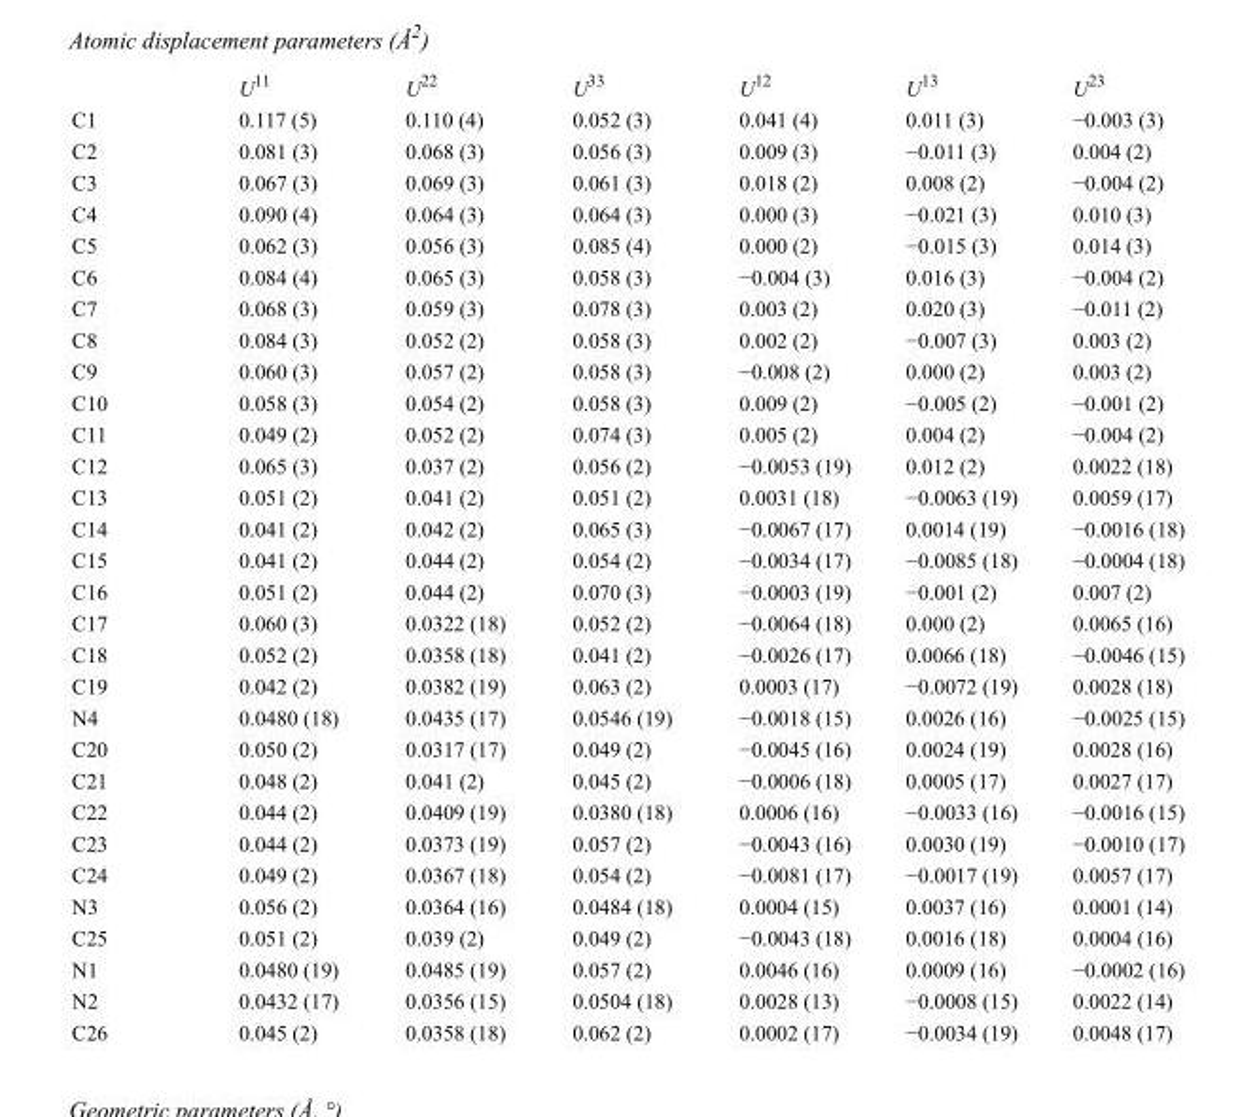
<table><thead><tr><td></td><td>U<sup>11</sup></td><td>U<sup>22</sup></td><td>U<sup>33</sup></td><td>U<sup>12</sup></td><td>U<sup>13</sup></td><td>U<sup>23</sup></td></tr></thead><tbody><tr><td>C1</td><td>0.117 (5)</td><td>0.110 (4)</td><td>0.052 (3)</td><td>0.041 (4)</td><td>0.011 (3)</td><td>−0.003 (3)</td></tr><tr><td>C2</td><td>0.081 (3)</td><td>0.068 (3)</td><td>0.056 (3)</td><td>0.009 (3)</td><td>−0.011 (3)</td><td>0.004 (2)</td></tr><tr><td>C3</td><td>0.067 (3)</td><td>0.069 (3)</td><td>0.061 (3)</td><td>0.018 (2)</td><td>0.008 (2)</td><td>−0.004 (2)</td></tr><tr><td>C4</td><td>0.090 (4)</td><td>0.064 (3)</td><td>0.064 (3)</td><td>0.000 (3)</td><td>−0.021 (3)</td><td>0.010 (3)</td></tr><tr><td>C5</td><td>0.062 (3)</td><td>0.056 (3)</td><td>0.085 (4)</td><td>0.000 (2)</td><td>−0.015 (3)</td><td>0.014 (3)</td></tr><tr><td>C6</td><td>0.084 (4)</td><td>0.065 (3)</td><td>0.058 (3)</td><td>−0.004 (3)</td><td>0.016 (3)</td><td>−0.004 (2)</td></tr><tr><td>C7</td><td>0.068 (3)</td><td>0.059 (3)</td><td>0.078 (3)</td><td>0.003 (2)</td><td>0.020 (3)</td><td>−0.011 (2)</td></tr><tr><td>C8</td><td>0.084 (3)</td><td>0.052 (2)</td><td>0.058 (3)</td><td>0.002 (2)</td><td>−0.007 (3)</td><td>0.003 (2)</td></tr><tr><td>C9</td><td>0.060 (3)</td><td>0.057 (2)</td><td>0.058 (3)</td><td>−0.008 (2)</td><td>0.000 (2)</td><td>0.003 (2)</td></tr><tr><td>C10</td><td>0.058 (3)</td><td>0.054 (2)</td><td>0.058 (3)</td><td>0.009 (2)</td><td>−0.005 (2)</td><td>−0.001 (2)</td></tr><tr><td>C11</td><td>0.049 (2)</td><td>0.052 (2)</td><td>0.074 (3)</td><td>0.005 (2)</td><td>0.004 (2)</td><td>−0.004 (2)</td></tr><tr><td>C12</td><td>0.065 (3)</td><td>0.037 (2)</td><td>0.056 (2)</td><td>−0.0053 (19)</td><td>0.012 (2)</td><td>0.0022 (18)</td></tr><tr><td>C13</td><td>0.051 (2)</td><td>0.041 (2)</td><td>0.051 (2)</td><td>0.0031 (18)</td><td>−0.0063 (19)</td><td>0.0059 (17)</td></tr><tr><td>C14</td><td>0.041 (2)</td><td>0.042 (2)</td><td>0.065 (3)</td><td>−0.0067 (17)</td><td>0.0014 (19)</td><td>−0.0016 (18)</td></tr><tr><td>C15</td><td>0.041 (2)</td><td>0.044 (2)</td><td>0.054 (2)</td><td>−0.0034 (17)</td><td>−0.0085 (18)</td><td>−0.0004 (18)</td></tr><tr><td>C16</td><td>0.051 (2)</td><td>0.044 (2)</td><td>0.070 (3)</td><td>−0.0003 (19)</td><td>−0.001 (2)</td><td>0.007 (2)</td></tr><tr><td>C17</td><td>0.060 (3)</td><td>0.0322 (18)</td><td>0.052 (2)</td><td>−0.0064 (18)</td><td>0.000 (2)</td><td>0.0065 (16)</td></tr><tr><td>C18</td><td>0.052 (2)</td><td>0.0358 (18)</td><td>0.041 (2)</td><td>−0.0026 (17)</td><td>0.0066 (18)</td><td>−0.0046 (15)</td></tr><tr><td>C19</td><td>0.042 (2)</td><td>0.0382 (19)</td><td>0.063 (2)</td><td>0.0003 (17)</td><td>−0.0072 (19)</td><td>0.0028 (18)</td></tr><tr><td>N4</td><td>0.0480 (18)</td><td>0.0435 (17)</td><td>0.0546 (19)</td><td>−0.0018 (15)</td><td>0.0026 (16)</td><td>−0.0025 (15)</td></tr><tr><td>C20</td><td>0.050 (2)</td><td>0.0317 (17)</td><td>0.049 (2)</td><td>−0.0045 (16)</td><td>0.0024 (19)</td><td>0.0028 (16)</td></tr><tr><td>C21</td><td>0.048 (2)</td><td>0.041 (2)</td><td>0.045 (2)</td><td>−0.0006 (18)</td><td>0.0005 (17)</td><td>0.0027 (17)</td></tr><tr><td>C22</td><td>0.044 (2)</td><td>0.0409 (19)</td><td>0.0380 (18)</td><td>0.0006 (16)</td><td>−0.0033 (16)</td><td>−0.0016 (15)</td></tr><tr><td>C23</td><td>0.044 (2)</td><td>0.0373 (19)</td><td>0.057 (2)</td><td>−0.0043 (16)</td><td>0.0030 (19)</td><td>−0.0010 (17)</td></tr><tr><td>C24</td><td>0.049 (2)</td><td>0.0367 (18)</td><td>0.054 (2)</td><td>−0.0081 (17)</td><td>−0.0017 (19)</td><td>0.0057 (17)</td></tr><tr><td>N3</td><td>0.056 (2)</td><td>0.0364 (16)</td><td>0.0484 (18)</td><td>0.0004 (15)</td><td>0.0037 (16)</td><td>0.0001 (14)</td></tr><tr><td>C25</td><td>0.051 (2)</td><td>0.039 (2)</td><td>0.049 (2)</td><td>−0.0043 (18)</td><td>0.0016 (18)</td><td>0.0004 (16)</td></tr><tr><td>N1</td><td>0.0480 (19)</td><td>0.0485 (19)</td><td>0.057 (2)</td><td>0.0046 (16)</td><td>0.0009 (16)</td><td>−0.0002 (16)</td></tr><tr><td>N2</td><td>0.0432 (17)</td><td>0.0356 (15)</td><td>0.0504 (18)</td><td>0.0028 (13)</td><td>−0.0008 (15)</td><td>0.0022 (14)</td></tr><tr><td>C26</td><td>0.045 (2)</td><td>0.0358 (18)</td><td>0.062 (2)</td><td>0.0002 (17)</td><td>−0.0034 (19)</td><td>0.0048 (17)</td></tr></tbody></table>